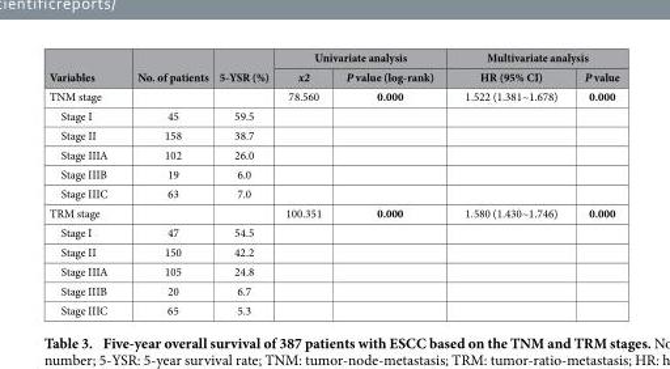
<table><thead><tr><td rowspan="2">Variables</td><td rowspan="2">No. of patients</td><td rowspan="2">5-YSR (%)</td><td colspan="2">Univariate analysis</td><td colspan="2">Multivariate analysis</td></tr><tr><td>x2</td><td>P value (log-rank)</td><td>HR (95% CI)</td><td>P value</td></tr></thead><tbody><tr><td>TNM stage</td><td></td><td></td><td>78.560</td><td>0.000</td><td>1.522 (1.381~1.678)</td><td>0.000</td></tr><tr><td>Stage I</td><td>45</td><td>59.5</td><td></td><td></td><td></td><td></td></tr><tr><td>Stage II</td><td>158</td><td>38.7</td><td></td><td></td><td></td><td></td></tr><tr><td>Stage IIIA</td><td>102</td><td>26.0</td><td></td><td></td><td></td><td></td></tr><tr><td>Stage IIIB</td><td>19</td><td>6.0</td><td></td><td></td><td></td><td></td></tr><tr><td>Stage IIIC</td><td>63</td><td>7.0</td><td></td><td></td><td></td><td></td></tr><tr><td>TRM stage</td><td></td><td></td><td>100.351</td><td>0.000</td><td>1.580 (1.430~1.746)</td><td>0.000</td></tr><tr><td>Stage I</td><td>47</td><td>54.5</td><td></td><td></td><td></td><td></td></tr><tr><td>Stage II</td><td>150</td><td>42.2</td><td></td><td></td><td></td><td></td></tr><tr><td>Stage IIIA</td><td>105</td><td>24.8</td><td></td><td></td><td></td><td></td></tr><tr><td>Stage IIIB</td><td>20</td><td>6.7</td><td></td><td></td><td></td><td></td></tr><tr><td>Stage IIIC</td><td>65</td><td>5.3</td><td></td><td></td><td></td><td></td></tr></tbody></table>